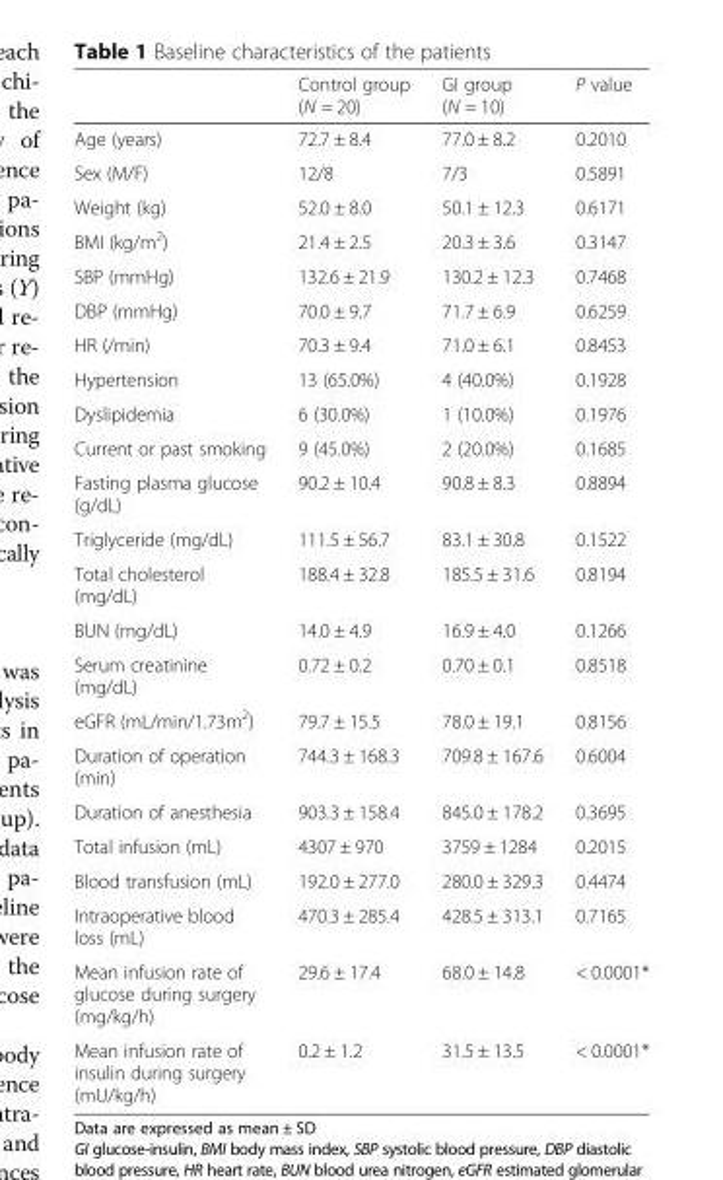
<table><thead><tr><td></td><td>Control group (N = 20)</td><td>GI group (N = 10)</td><td>P value</td></tr></thead><tbody><tr><td>Age (years)</td><td>72.7 ± 8.4</td><td>77.0 ± 8.2</td><td>0.2010</td></tr><tr><td>Sex (M/F)</td><td>12/8</td><td>7/3</td><td>0.5891</td></tr><tr><td>Weight (kg)</td><td>52.0 ± 8.0</td><td>50.1 ± 12.3</td><td>0.6171</td></tr><tr><td>BMI (kg/m<sup>2</sup>)</td><td>21.4 ± 2.5</td><td>20.3 ± 3.6</td><td>0.3147</td></tr><tr><td>SBP (mmHg)</td><td>132.6 ± 21.9</td><td>130.2 ± 12.3</td><td>0.7468</td></tr><tr><td>DBP (mmHg)</td><td>70.0 ± 9.7</td><td>71.7 ± 6.9</td><td>0.6259</td></tr><tr><td>HR (/min)</td><td>70.3 ± 9.4</td><td>71.0 ± 6.1</td><td>0.8453</td></tr><tr><td>Hypertension</td><td>13 (65.0%)</td><td>4 (40.0%)</td><td>0.1928</td></tr><tr><td>Dyslipidemia</td><td>6 (30.0%)</td><td>1 (10.0%)</td><td>0.1976</td></tr><tr><td>Current or past smoking</td><td>9 (45.0%)</td><td>2 (20.0%)</td><td>0.1685</td></tr><tr><td>Fasting plasma glucose (g/dL)</td><td>90.2 ± 10.4</td><td>90.8 ± 8.3</td><td>0.8894</td></tr><tr><td>Triglyceride (mg/dL)</td><td>111.5 ± 56.7</td><td>83.1 ± 30.8</td><td>0.1522</td></tr><tr><td>Total cholesterol (mg/dL)</td><td>188.4 ± 32.8</td><td>185.5 ± 31.6</td><td>0.8194</td></tr><tr><td>BUN (mg/dL)</td><td>14.0 ± 4.9</td><td>16.9 ± 4.0</td><td>0.1266</td></tr><tr><td>Serum creatinine (mg/dL)</td><td>0.72 ± 0.2</td><td>0.70 ± 0.1</td><td>0.8518</td></tr><tr><td>eGFR (mL/min/1.73m<sup>2</sup>)</td><td>79.7 ± 15.5</td><td>78.0 ± 19.1</td><td>0.8156</td></tr><tr><td>Duration of operation (min)</td><td>744.3 ± 168.3</td><td>709.8 ± 167.6</td><td>0.6004</td></tr><tr><td>Duration of anesthesia</td><td>903.3 ± 158.4</td><td>845.0 ± 178.2</td><td>0.3695</td></tr><tr><td>Total infusion (mL)</td><td>4307 ± 970</td><td>3759 ± 1284</td><td>0.2015</td></tr><tr><td>Blood transfusion (mL)</td><td>192.0 ± 277.0</td><td>280.0 ± 329.3</td><td>0.4474</td></tr><tr><td>Intraoperative blood loss (mL)</td><td>470.3 ± 285.4</td><td>428.5 ± 313.1</td><td>0.7165</td></tr><tr><td>Mean infusion rate of glucose during surgery (mg/kg/h)</td><td>29.6 ± 17.4</td><td>68.0 ± 14.8</td><td>&lt; 0.0001*</td></tr><tr><td>Mean infusion rate of insulin during surgery (mU/kg/h)</td><td>0.2 ± 1.2</td><td>31.5 ± 13.5</td><td>&lt; 0.0001*</td></tr></tbody></table>